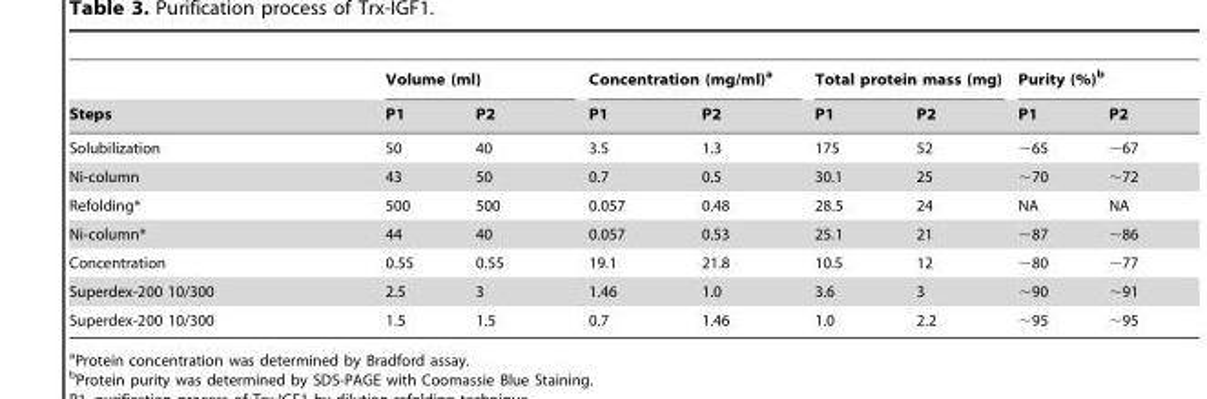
<table><thead><tr><td rowspan="2">Steps</td><td colspan="2">Volume (ml)</td><td colspan="2">Concentration (mg/ml)<sup>a</sup></td><td colspan="2">Total protein mass (mg)</td><td colspan="2">Purity (%)<sup>b</sup></td></tr><tr><td>P1</td><td>P2</td><td>P1</td><td>P2</td><td>P1</td><td>P2</td><td>P1</td><td>P2</td></tr></thead><tbody><tr><td>Solubilization</td><td>50</td><td>40</td><td>3.5</td><td>1.3</td><td>175</td><td>52</td><td>∼65</td><td>∼67</td></tr><tr><td>Ni-column</td><td>43</td><td>50</td><td>0.7</td><td>0.5</td><td>30.1</td><td>25</td><td>∼70</td><td>∼72</td></tr><tr><td>Refolding*</td><td>500</td><td>500</td><td>0.057</td><td>0.48</td><td>28.5</td><td>24</td><td>NA</td><td>NA</td></tr><tr><td>Ni-column*</td><td>44</td><td>40</td><td>0.057</td><td>0.53</td><td>25.1</td><td>21</td><td>∼87</td><td>∼86</td></tr><tr><td>Concentration</td><td>0.55</td><td>0.55</td><td>19.1</td><td>21.8</td><td>10.5</td><td>12</td><td>∼80</td><td>∼77</td></tr><tr><td>Superdex-200 10/300</td><td>2.5</td><td>3</td><td>1.46</td><td>1.0</td><td>3.6</td><td>3</td><td>∼90</td><td>∼91</td></tr><tr><td>Superdex-200 10/300</td><td>1.5</td><td>1.5</td><td>0.7</td><td>1.46</td><td>1.0</td><td>2.2</td><td>∼95</td><td>∼95</td></tr></tbody></table>